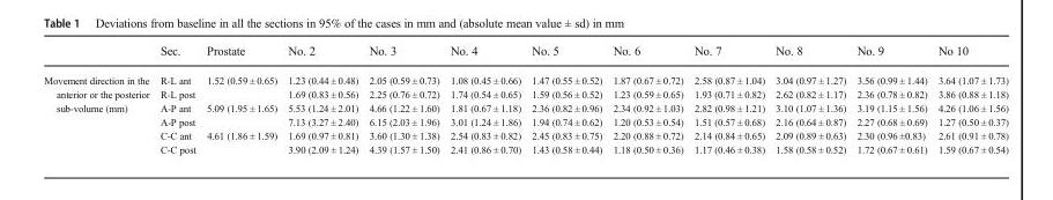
<table><thead><tr><td></td><td>Sec.</td><td>Prostate</td><td>No. 2</td><td>No. 3</td><td>No. 4</td><td>No. 5</td><td>No. 6</td><td>No. 7</td><td>No. 8</td><td>No. 9</td><td>No 10</td></tr></thead><tbody><tr><td rowspan="6">Movement direction in the anterior or the posterior sub-volume (mm)</td><td>R-L ant</td><td rowspan="2">1.52 (0.59 ± 0.65)</td><td>1.23 (0.44 ± 0.48)</td><td>2.05 (0.59 ± 0.73)</td><td>1.08 (0.45 ± 0.66)</td><td>1.47 (0.55 ± 0.52)</td><td>1.87 (0.67 ± 0.72)</td><td>2.58 (0.87 ± 1.04)</td><td>3.04 (0.97 ± 1.27)</td><td>3.56 (0.99 ± 1.44)</td><td>3.64 (1.07 ± 1.73)</td></tr><tr><td>R-L post</td><td>1.69 (0.83 ± 0.56)</td><td>2.25 (0.76 ± 0.72)</td><td>1.74 (0.54 ± 0.65)</td><td>1.59 (0.56 ± 0.52)</td><td>1.23 (0.59 ± 0.65)</td><td>1.93 (0.71 ± 0.82)</td><td>2.62 (0.82 ± 1.17)</td><td>2.36 (0.78 ± 0.82)</td><td>3.86 (0.88 ± 1.18)</td></tr><tr><td>A-P ant</td><td rowspan="2">5.09 (1.95 ± 1.65)</td><td>5.53 (1.24 ± 2.01)</td><td>4.66 (1.22 ± 1.60)</td><td>1.81 (0.67 ± 1.18)</td><td>2.36 (0.82 ± 0.96)</td><td>2.34 (0.92 ± 1.03)</td><td>2.82 (0.98 ± 1.21)</td><td>3.10 (1.07 ± 1.36)</td><td>3.19 (1.15 ± 1.56)</td><td>4.26 (1.06 ± 1.56)</td></tr><tr><td>A-P post</td><td>7.13 (3.27 ± 2.40)</td><td>6.15 (2.03 ± 1.96)</td><td>3.01 (1.24 ± 1.86)</td><td>1.94 (0.74 ± 0.62)</td><td>1.20 (0.53 ± 0.54)</td><td>1.51 (0.57 ± 0.68)</td><td>2.16 (0.64 ± 0.87)</td><td>2.27 (0.68 ± 0.69)</td><td>1.27 (0.50 ± 0.37)</td></tr><tr><td>C-C ant</td><td rowspan="2">4.61 (1.86 ± 1.59)</td><td>1.69 (0.97 ± 0.81)</td><td>3.60 (1.30 ± 1.38)</td><td>2.54 (0.83 ± 0.82)</td><td>2.45 (0.83 ± 0.75)</td><td>2.20 (0.88 ± 0.72)</td><td>2.14 (0.84 ± 0.65)</td><td>2.09 (0.89 ± 0.63)</td><td>2.30 (0.96 ±0.83)</td><td>2.61 (0.91 ± 0.78)</td></tr><tr><td>C-C post</td><td>3.90 (2.09 ± 1.24)</td><td>4.39 (1.57 ± 1.50)</td><td>2.41 (0.86 ± 0.70)</td><td>1.43 (0.58 ± 0.44)</td><td>1.18 (0.50 ± 0.36)</td><td>1.17 (0.46 ± 0.38)</td><td>1.58 (0.58 ± 0.52)</td><td>1.72 (0.67 ± 0.61)</td><td>1.59 (0.67 ± 0.54)</td></tr></tbody></table>